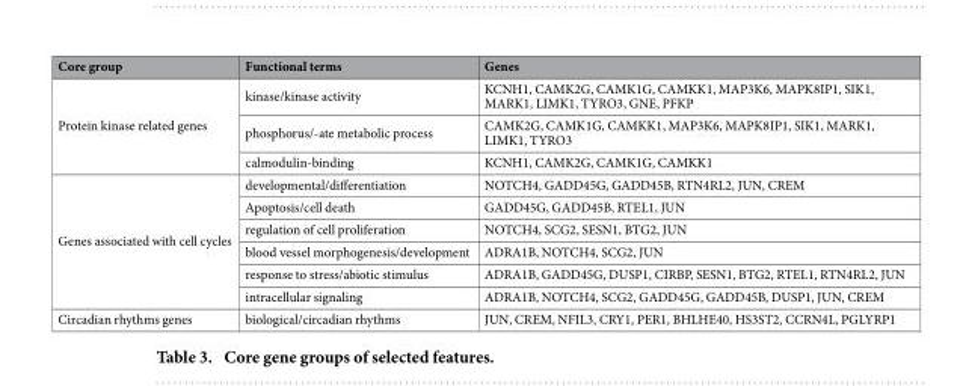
<table><thead><tr><td>Core group</td><td>Functional terms</td><td>Genes</td></tr></thead><tbody><tr><td rowspan="3">Protein kinase related genes</td><td>kinase/kinase activity</td><td>KCNH1, CAMK2G, CAMK1G, CAMKK1, MAP3K6, MAPK8IP1, SIK1, MARK1, LIMK1, TYRO3, GNE, PFKP</td></tr><tr><td>phosphorus/-ate metabolic process</td><td>CAMK2G, CAMK1G, CAMKK1, MAP3K6, MAPK8IP1, SIK1, MARK1, LIMK1, TYRO3</td></tr><tr><td>calmodulin-binding</td><td>KCNH1, CAMK2G, CAMK1G, CAMKK1</td></tr><tr><td rowspan="6">Genes associated with cell cycles</td><td>developmental/differentiation</td><td>NOTCH4, GADD45G, GADD45B, RTN4RL2, JUN, CREM</td></tr><tr><td>Apoptosis/cell death</td><td>GADD45G, GADD45B, RTEL1, JUN</td></tr><tr><td>regulation of cell proliferation</td><td>NOTCH4, SCG2, SESN1, BTG2, JUN</td></tr><tr><td>blood vessel morphogenesis/development</td><td>ADRA1B, NOTCH4, SCG2, JUN</td></tr><tr><td>response to stress/abiotic stimulus</td><td>ADRA1B, GADD45G, DUSP1, CIRBP, SESN1, BTG2, RTEL1, RTN4RL2, JUN</td></tr><tr><td>intracellular signaling</td><td>ADRA1B, NOTCH4, SCG2, GADD45G, GADD45B, DUSP1, JUN, CREM</td></tr><tr><td>Circadian rhythms genes</td><td>biological/circadian rhythms</td><td>JUN, CREM, NFIL3, CRY1, PER1, BHLHE40, HS3ST2, CCRN4L, PGLYRP1</td></tr></tbody></table>